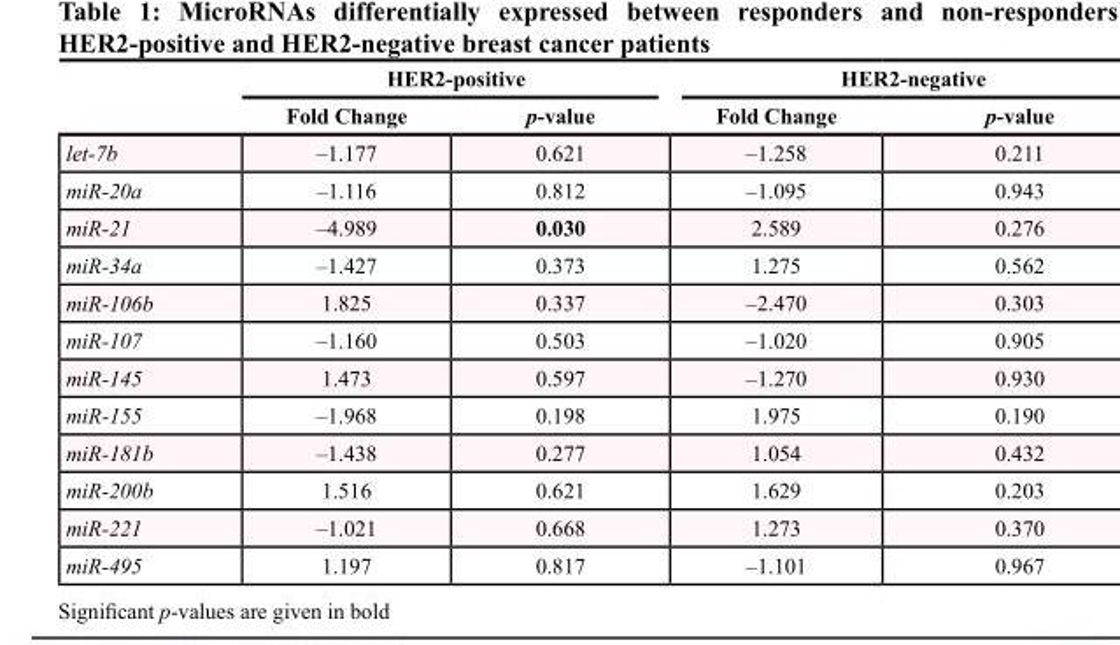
<table><thead><tr><td rowspan="2"></td><td colspan="2">HER2-positive</td><td colspan="2">HER2-negative</td></tr><tr><td>Fold Change</td><td>p-value</td><td>Fold Change</td><td>p-value</td></tr></thead><tbody><tr><td>let-7b</td><td>–1.177</td><td>0.621</td><td>–1.258</td><td>0.211</td></tr><tr><td>miR-20a</td><td>–1.116</td><td>0.812</td><td>–1.095</td><td>0.943</td></tr><tr><td>miR-21</td><td>–4.989</td><td>0.030</td><td>2.589</td><td>0.276</td></tr><tr><td>miR-34a</td><td>–1.427</td><td>0.373</td><td>1.275</td><td>0.562</td></tr><tr><td>miR-106b</td><td>1.825</td><td>0.337</td><td>–2.470</td><td>0.303</td></tr><tr><td>miR-107</td><td>–1.160</td><td>0.503</td><td>–1.020</td><td>0.905</td></tr><tr><td>miR-145</td><td>1.473</td><td>0.597</td><td>–1.270</td><td>0.930</td></tr><tr><td>miR-155</td><td>–1.968</td><td>0.198</td><td>1.975</td><td>0.190</td></tr><tr><td>miR-181b</td><td>–1.438</td><td>0.277</td><td>1.054</td><td>0.432</td></tr><tr><td>miR-200b</td><td>1.516</td><td>0.621</td><td>1.629</td><td>0.203</td></tr><tr><td>miR-221</td><td>–1.021</td><td>0.668</td><td>1.273</td><td>0.370</td></tr><tr><td>miR-495</td><td>1.197</td><td>0.817</td><td>–1.101</td><td>0.967</td></tr></tbody></table>